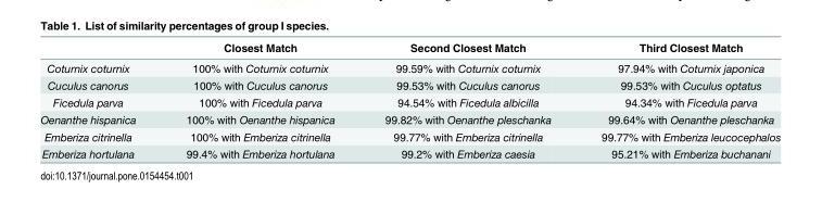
<table><thead><tr><td></td><td>Closest Match</td><td>Second Closest Match</td><td>Third Closest Match</td></tr></thead><tbody><tr><td>Coturnix coturnix</td><td>100% with Coturnix coturnix</td><td>99.59% with Coturnix coturnix</td><td>97.94% with Coturnix japonica</td></tr><tr><td>Cuculus canorus</td><td>100% with Cuculus canorus</td><td>99.53% with Cuculus canorus</td><td>99.53% with Cuculus optatus</td></tr><tr><td>Ficedula parva</td><td>100% with Ficedula parva</td><td>94.54% with Ficedula albicilla</td><td>94.34% with Ficedula parva</td></tr><tr><td>Oenanthe hispanica</td><td>100% with Oenanthe hispanica</td><td>99.82% with Oenanthe pleschanka</td><td>99.64% with Oenanthe pleschanka</td></tr><tr><td>Emberiza citrinella</td><td>100% with Emberiza citrinella</td><td>99.77% with Emberiza citrinella</td><td>99.77% with Emberiza leucocephalos</td></tr><tr><td>Emberiza hortulana</td><td>99.4% with Emberiza hortulana</td><td>99.2% with Emberiza caesia</td><td>95.21% with Emberiza buchanani</td></tr></tbody></table>